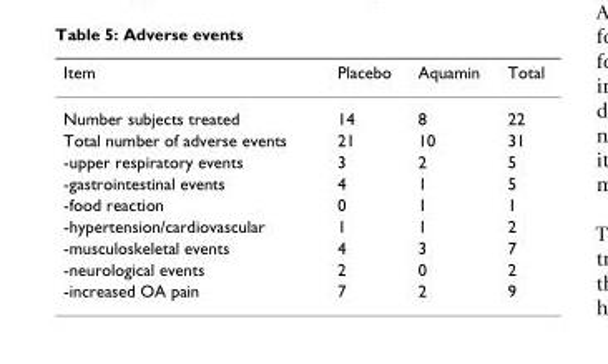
<table><thead><tr><td>Item</td><td>Placebo</td><td>Aquamin</td><td>Total</td></tr></thead><tbody><tr><td>Number subjects treated</td><td>14</td><td>8</td><td>22</td></tr><tr><td>Total number of adverse events</td><td>21</td><td>10</td><td>31</td></tr><tr><td>-upper respiratory events</td><td>3</td><td>2</td><td>5</td></tr><tr><td>-gastrointestinal events</td><td>4</td><td>1</td><td>5</td></tr><tr><td>-food reaction</td><td>0</td><td>1</td><td>1</td></tr><tr><td>-hypertension/cardiovascular</td><td>1</td><td>1</td><td>2</td></tr><tr><td>-musculoskeletal events</td><td>4</td><td>3</td><td>7</td></tr><tr><td>-neurological events</td><td>2</td><td>0</td><td>2</td></tr><tr><td>-increased OA pain</td><td>7</td><td>2</td><td>9</td></tr></tbody></table>